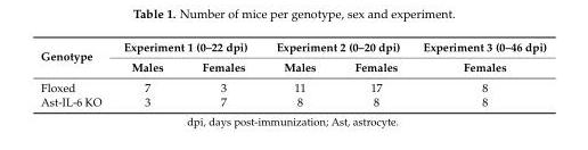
<table><thead><tr><td rowspan="2">Genotype</td><td colspan="2">Experiment 1 (0–22 dpi)</td><td colspan="2">Experiment 2 (0–20 dpi)</td><td rowspan="2">Experiment 3 (0–46 dpi) Females</td></tr><tr><td>Males</td><td>Females</td><td>Males</td><td>Females</td></tr></thead><tbody><tr><td>Floxed</td><td>7</td><td>3</td><td>11</td><td>17</td><td>8</td></tr><tr><td>Ast-IL-6 KO</td><td>3</td><td>7</td><td>8</td><td>8</td><td>8</td></tr></tbody></table>